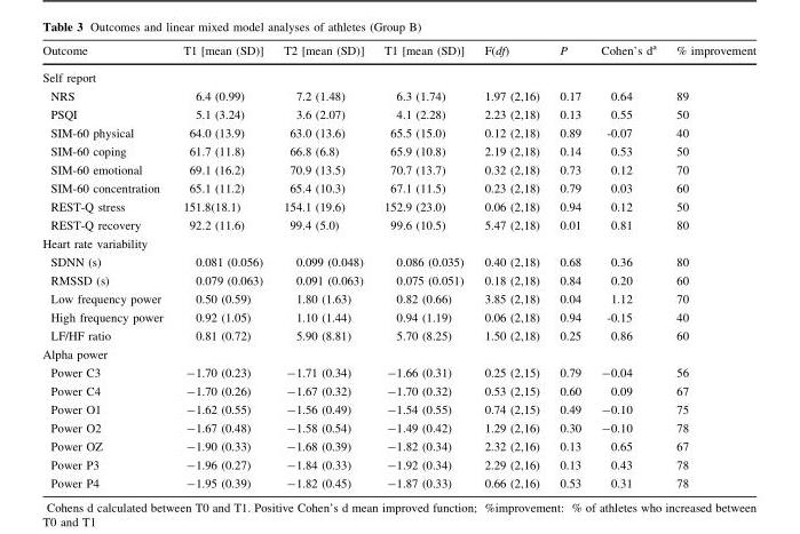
<table><thead><tr><td>Outcome</td><td>T1 [mean (SD)]</td><td>T2 [mean (SD)]</td><td>T1 [mean (SD)]</td><td>F(df)</td><td>P</td><td>Cohen’s d<sup>a</sup></td><td>% improvement</td></tr></thead><tbody><tr><td colspan="8">Self report</td></tr><tr><td>NRS</td><td>6.4 (0.99)</td><td>7.2 (1.48)</td><td>6.3 (1.74)</td><td>1.97 (2,16)</td><td>0.17</td><td>0.64</td><td>89</td></tr><tr><td>PSQI</td><td>5.1 (3.24)</td><td>3.6 (2.07)</td><td>4.1 (2.28)</td><td>2.23 (2,18)</td><td>0.13</td><td>0.55</td><td>50</td></tr><tr><td>SIM-60 physical</td><td>64.0 (13.9)</td><td>63.0 (13.6)</td><td>65.5 (15.0)</td><td>0.12 (2,18)</td><td>0.89</td><td>-0.07</td><td>40</td></tr><tr><td>SIM-60 coping</td><td>61.7 (11.8)</td><td>66.8 (6.8)</td><td>65.9 (10.8)</td><td>2.19 (2,18)</td><td>0.14</td><td>0.53</td><td>50</td></tr><tr><td>SIM-60 emotional</td><td>69.1 (16.2)</td><td>70.9 (13.5)</td><td>70.7 (13.7)</td><td>0.32 (2,18)</td><td>0.73</td><td>0.12</td><td>70</td></tr><tr><td>SIM-60 concentration</td><td>65.1 (11.2)</td><td>65.4 (10.3)</td><td>67.1 (11.5)</td><td>0.23 (2,18)</td><td>0.79</td><td>0.03</td><td>60</td></tr><tr><td>REST-Q stress</td><td>151.8(18.1)</td><td>154.1 (19.6)</td><td>152.9 (23.0)</td><td>0.06 (2,18)</td><td>0.94</td><td>0.12</td><td>50</td></tr><tr><td>REST-Q recovery</td><td>92.2 (11.6)</td><td>99.4 (5.0)</td><td>99.6 (10.5)</td><td>5.47 (2,18)</td><td>0.01</td><td>0.81</td><td>80</td></tr><tr><td colspan="8">Heart rate variability</td></tr><tr><td>SDNN (s)</td><td>0.081 (0.056)</td><td>0.099 (0.048)</td><td>0.086 (0.035)</td><td>0.40 (2,18)</td><td>0.68</td><td>0.36</td><td>80</td></tr><tr><td>RMSSD (s)</td><td>0.079 (0.063)</td><td>0.091 (0.063)</td><td>0.075 (0.051)</td><td>0.18 (2,18)</td><td>0.84</td><td>0.20</td><td>60</td></tr><tr><td>Low frequency power</td><td>0.50 (0.59)</td><td>1.80 (1.63)</td><td>0.82 (0.66)</td><td>3.85 (2,18)</td><td>0.04</td><td>1.12</td><td>70</td></tr><tr><td>High frequency power</td><td>0.92 (1.05)</td><td>1.10 (1.44)</td><td>0.94 (1.19)</td><td>0.06 (2,18)</td><td>0.94</td><td>-0.15</td><td>40</td></tr><tr><td>LF/HF ratio</td><td>0.81 (0.72)</td><td>5.90 (8.81)</td><td>5.70 (8.25)</td><td>1.50 (2,18)</td><td>0.25</td><td>0.86</td><td>60</td></tr><tr><td colspan="8">Alpha power</td></tr><tr><td>Power C3</td><td>-1.70 (0.23)</td><td>-1.71 (0.34)</td><td>-1.66 (0.31)</td><td>0.25 (2,15)</td><td>0.79</td><td>-0.04</td><td>56</td></tr><tr><td>Power C4</td><td>-1.70 (0.26)</td><td>-1.67 (0.32)</td><td>-1.70 (0.32)</td><td>0.53 (2,15)</td><td>0.60</td><td>0.09</td><td>67</td></tr><tr><td>Power O1</td><td>-1.62 (0.55)</td><td>-1.56 (0.49)</td><td>-1.54 (0.55)</td><td>0.74 (2,15)</td><td>0.49</td><td>-0.10</td><td>75</td></tr><tr><td>Power O2</td><td>-1.67 (0.48)</td><td>-1.58 (0.54)</td><td>-1.49 (0.42)</td><td>1.29 (2,16)</td><td>0.30</td><td>-0.10</td><td>78</td></tr><tr><td>Power OZ</td><td>-1.90 (0.33)</td><td>-1.68 (0.39)</td><td>-1.82 (0.34)</td><td>2.32 (2,16)</td><td>0.13</td><td>0.65</td><td>67</td></tr><tr><td>Power P3</td><td>-1.96 (0.27)</td><td>-1.84 (0.33)</td><td>-1.92 (0.34)</td><td>2.29 (2,16)</td><td>0.13</td><td>0.43</td><td>78</td></tr><tr><td>Power P4</td><td>-1.95 (0.39)</td><td>-1.82 (0.45)</td><td>-1.87 (0.33)</td><td>0.66 (2,16)</td><td>0.53</td><td>0.31</td><td>78</td></tr></tbody></table>